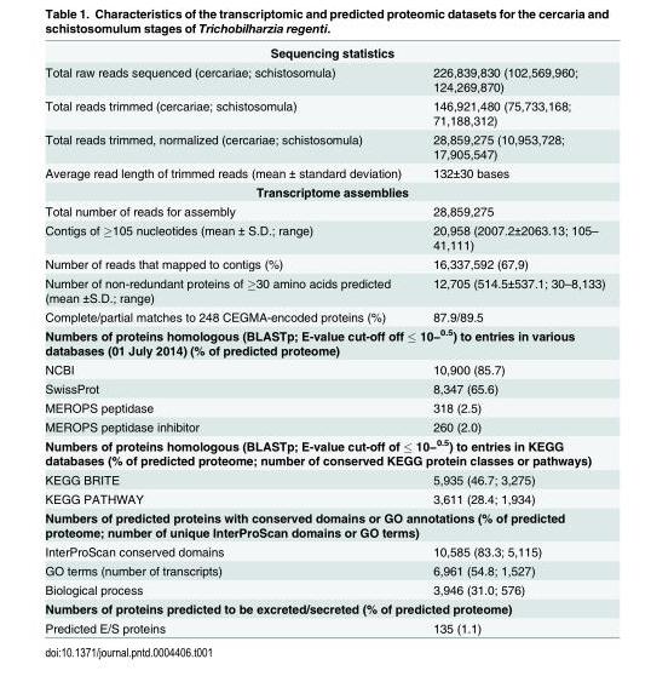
<table><tbody><tr><td colspan="2">Sequencing statistics</td></tr><tr><td>Total raw reads sequenced (cercariae; schistosomula)</td><td>226,839,830 (102,569,960; 124,269,870)</td></tr><tr><td>Total reads trimmed (cercariae; schistosomula)</td><td>146,921,480 (75,733,168; 71,188,312)</td></tr><tr><td>Total reads trimmed, normalized (cercariae; schistosomula)</td><td>28,859,275 (10,953,728; 17,905,547)</td></tr><tr><td>Average read length of trimmed reads (mean ± standard deviation)</td><td>132±30 bases</td></tr><tr><td colspan="2">Transcriptome assemblies</td></tr><tr><td>Total number of reads for assembly</td><td>28,859,275</td></tr><tr><td>Contigs of ≥105 nucleotides (mean ± S.D.; range)</td><td>20,958 (2007.2±2063.13; 105– 41,111)</td></tr><tr><td>Number of reads that mapped to contigs (%)</td><td>16,337,592 (67,9)</td></tr><tr><td>Number of non-redundant proteins of ≥30 amino acids predicted (mean ±S.D.; range)</td><td>12,705 (514.5±537.1; 30–8,133)</td></tr><tr><td>Complete/partial matches to 248 CEGMA-encoded proteins (%)</td><td>87.9/89.5</td></tr><tr><td colspan="2">Numbers of proteins homologous (BLASTp; E-value cut-off off ≤ 10−<sup>0.5</sup>) to entries in various databases (01 July 2014) (% of predicted proteome)</td></tr><tr><td>NCBI</td><td>10,900 (85.7)</td></tr><tr><td>SwissProt</td><td>8,347 (65.6)</td></tr><tr><td>MEROPS peptidase</td><td>318 (2.5)</td></tr><tr><td>MEROPS peptidase inhibitor</td><td>260 (2.0)</td></tr><tr><td colspan="2">Numbers of proteins homologous (BLASTp; E-value cut-off of ≤ 10−<sup>0.5</sup>) to entries in KEGG databases (% of predicted proteome; number of conserved KEGG protein classes or pathways)</td></tr><tr><td>KEGG BRITE</td><td>5,935 (46.7; 3,275)</td></tr><tr><td>KEGG PATHWAY</td><td>3,611 (28.4; 1,934)</td></tr><tr><td colspan="2">Numbers of predicted proteins with conserved domains or GO annotations (% of predicted proteome; number of unique InterProScan domains or GO terms)</td></tr><tr><td>InterProScan conserved domains</td><td>10,585 (83.3; 5,115)</td></tr><tr><td>GO terms (number of transcripts)</td><td>6,961 (54.8; 1,527)</td></tr><tr><td>Biological process</td><td>3,946 (31.0; 576)</td></tr><tr><td colspan="2">Numbers of proteins predicted to be excreted/secreted (% of predicted proteome)</td></tr><tr><td>Predicted E/S proteins</td><td>135 (1.1)</td></tr></tbody></table>